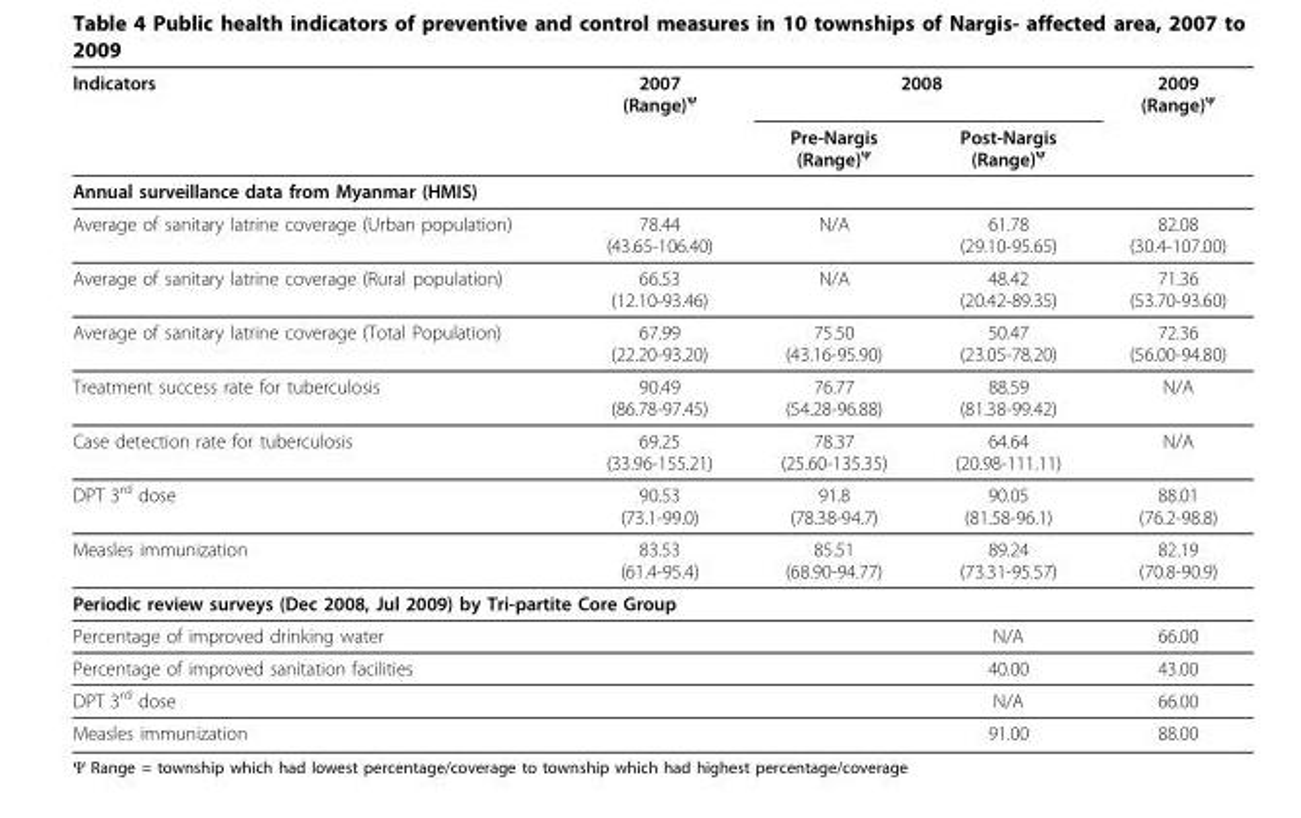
<table><thead><tr><td rowspan="2">Indicators</td><td rowspan="2">2007 (Range)ψ</td><td colspan="2">2008</td><td rowspan="2">2009 (Range)ψ</td></tr><tr><td>Pre-Nargis (Range)ψ</td><td>Post-Nargis (Range)ψ</td></tr></thead><tbody><tr><td colspan="5">Annual surveillance data from Myanmar (HMIS)</td></tr><tr><td>Average of sanitary latrine coverage (Urban population)</td><td>78.44 (43.65-106.40)</td><td>N/A</td><td>61.78 (29.10-95.65)</td><td>82.08 (30.4-107.00)</td></tr><tr><td>Average of sanitary latrine coverage (Rural population)</td><td>66.53 (12.10-93.46)</td><td>N/A</td><td>48.42 (20.42-89.35)</td><td>71.36 (53.70-93.60)</td></tr><tr><td>Average of sanitary latrine coverage (Total Population)</td><td>67.99 (22.20-93.20)</td><td>75.50 (43.16-95.90)</td><td>50.47 (23.05-78.20)</td><td>72.36 (56.00-94.80)</td></tr><tr><td>Treatment success rate for tuberculosis</td><td>90.49 (86.78-97.45)</td><td>76.77 (54.28-96.88)</td><td>88.59 (81.38-99.42)</td><td>N/A</td></tr><tr><td>Case detection rate for tuberculosis</td><td>69.25 (33.96-155.21)</td><td>78.37 (25.60-135.35)</td><td>64.64 (20.98-111.11)</td><td>N/A</td></tr><tr><td>DPT 3rd dose</td><td>90.53 (73.1-99.0)</td><td>91.8 (78.38-94.7)</td><td>90.05 (81.58-96.1)</td><td>88.01 (76.2-98.8)</td></tr><tr><td>Measles immunization</td><td>83.53 (61.4-95.4)</td><td>85.51 (68.90-94.77)</td><td>89.24 (73.31-95.57)</td><td>82.19 (70.8-90.9)</td></tr><tr><td colspan="5">Periodic review surveys (Dec 2008, Jul 2009) by Tri-partite Core Group</td></tr><tr><td>Percentage of improved drinking water</td><td></td><td></td><td>N/A</td><td>66.00</td></tr><tr><td>Percentage of improved sanitation facilities</td><td></td><td></td><td>40.00</td><td>43.00</td></tr><tr><td>DPT 3rd dose</td><td></td><td></td><td>N/A</td><td>66.00</td></tr><tr><td>Measles immunization</td><td></td><td></td><td>91.00</td><td>88.00</td></tr></tbody></table>